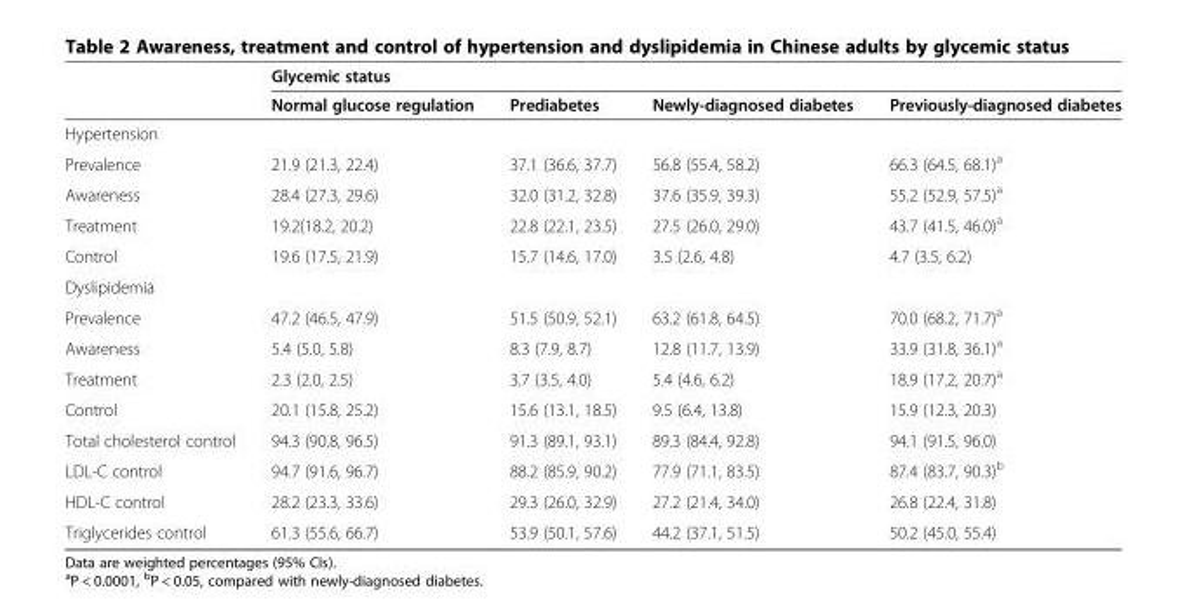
<table><thead><tr><td rowspan="2"></td><td colspan="4">Glycemic status</td></tr><tr><td>Normal glucose regulation</td><td>Prediabetes</td><td>Newly-diagnosed diabetes</td><td>Previously-diagnosed diabetes</td></tr></thead><tbody><tr><td colspan="5">Hypertension</td></tr><tr><td>Prevalence</td><td>21.9 (21.3, 22.4)</td><td>37.1 (36.6, 37.7)</td><td>56.8 (55.4, 58.2)</td><td>66.3 (64.5, 68.1)<sup>a</sup></td></tr><tr><td>Awareness</td><td>28.4 (27.3, 29.6)</td><td>32.0 (31.2, 32.8)</td><td>37.6 (35.9, 39.3)</td><td>55.2 (52.9, 57.5)<sup>a</sup></td></tr><tr><td>Treatment</td><td>19.2(18.2, 20.2)</td><td>22.8 (22.1, 23.5)</td><td>27.5 (26.0, 29.0)</td><td>43.7 (41.5, 46.0)<sup>a</sup></td></tr><tr><td>Control</td><td>19.6 (17.5, 21.9)</td><td>15.7 (14.6, 17.0)</td><td>3.5 (2.6, 4.8)</td><td>4.7 (3.5, 6.2)</td></tr><tr><td colspan="5">Dyslipidemia</td></tr><tr><td>Prevalence</td><td>47.2 (46.5, 47.9)</td><td>51.5 (50.9, 52.1)</td><td>63.2 (61.8, 64.5)</td><td>70.0 (68.2, 71.7)<sup>a</sup></td></tr><tr><td>Awareness</td><td>5.4 (5.0, 5.8)</td><td>8.3 (7.9, 8.7)</td><td>12.8 (11.7, 13.9)</td><td>33.9 (31.8, 36.1)<sup>a</sup></td></tr><tr><td>Treatment</td><td>2.3 (2.0, 2.5)</td><td>3.7 (3.5, 4.0)</td><td>5.4 (4.6, 6.2)</td><td>18.9 (17.2, 20.7)<sup>a</sup></td></tr><tr><td>Control</td><td>20.1 (15.8, 25.2)</td><td>15.6 (13.1, 18.5)</td><td>9.5 (6.4, 13.8)</td><td>15.9 (12.3, 20.3)</td></tr><tr><td>Total cholesterol control</td><td>94.3 (90.8, 96.5)</td><td>91.3 (89.1, 93.1)</td><td>89.3 (84.4, 92.8)</td><td>94.1 (91.5, 96.0)</td></tr><tr><td>LDL-C control</td><td>94.7 (91.6, 96.7)</td><td>88.2 (85.9, 90.2)</td><td>77.9 (71.1, 83.5)</td><td>87.4 (83.7, 90.3)<sup>b</sup></td></tr><tr><td>HDL-C control</td><td>28.2 (23.3, 33.6)</td><td>29.3 (26.0, 32.9)</td><td>27.2 (21.4, 34.0)</td><td>26.8 (22.4, 31.8)</td></tr><tr><td>Triglycerides control</td><td>61.3 (55.6, 66.7)</td><td>53.9 (50.1, 57.6)</td><td>44.2 (37.1, 51.5)</td><td>50.2 (45.0, 55.4)</td></tr></tbody></table>